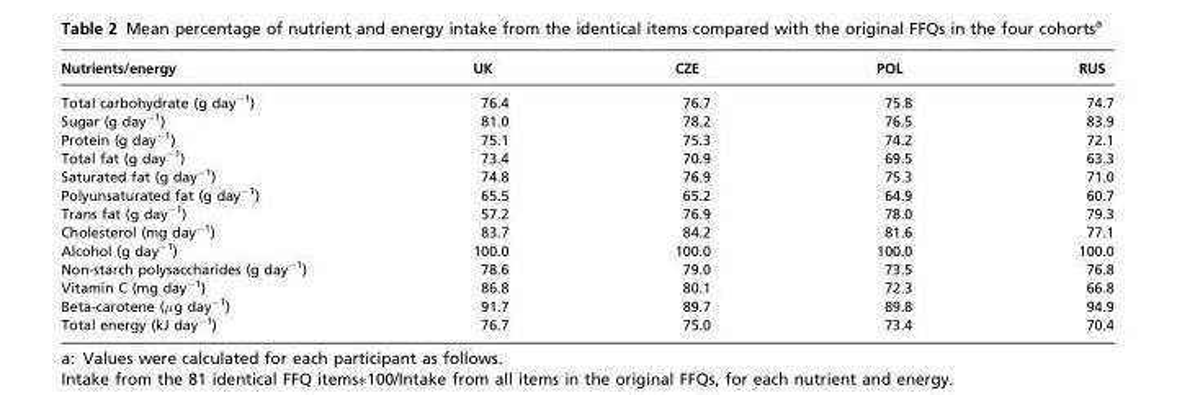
<table><thead><tr><td>Nutrients/energy</td><td>UK</td><td>CZE</td><td>POL</td><td>RUS</td></tr></thead><tbody><tr><td>Total carbohydrate (g day<sup>−1</sup>)</td><td>76.4</td><td>76.7</td><td>75.8</td><td>74.7</td></tr><tr><td>Sugar (g day<sup>−1</sup>)</td><td>81.0</td><td>78.2</td><td>76.5</td><td>83.9</td></tr><tr><td>Protein (g day<sup>−1</sup>)</td><td>75.1</td><td>75.3</td><td>74.2</td><td>72.1</td></tr><tr><td>Total fat (g day<sup>−1</sup>)</td><td>73.4</td><td>70.9</td><td>69.5</td><td>63.3</td></tr><tr><td>Saturated fat (g day<sup>−1</sup>)</td><td>74.8</td><td>76.9</td><td>75.3</td><td>71.0</td></tr><tr><td>Polyunsaturated fat (g day<sup>−1</sup>)</td><td>65.5</td><td>65.2</td><td>64.9</td><td>60.7</td></tr><tr><td>Trans fat (g day<sup>−1</sup>)</td><td>57.2</td><td>76.9</td><td>78.0</td><td>79.3</td></tr><tr><td>Cholesterol (mg day<sup>−1</sup>)</td><td>83.7</td><td>84.2</td><td>81.6</td><td>77.1</td></tr><tr><td>Alcohol (g day<sup>−1</sup>)</td><td>100.0</td><td>100.0</td><td>100.0</td><td>100.0</td></tr><tr><td>Non-starch polysaccharides (g day<sup>−1</sup>)</td><td>78.6</td><td>79.0</td><td>73.5</td><td>76.8</td></tr><tr><td>Vitamin C (mg day<sup>−1</sup>)</td><td>86.8</td><td>80.1</td><td>72.3</td><td>66.8</td></tr><tr><td>Beta-carotene (μg day<sup>−1</sup>)</td><td>91.7</td><td>89.7</td><td>89.8</td><td>94.9</td></tr><tr><td>Total energy (kJ day<sup>−1</sup>)</td><td>76.7</td><td>75.0</td><td>73.4</td><td>70.4</td></tr></tbody></table>